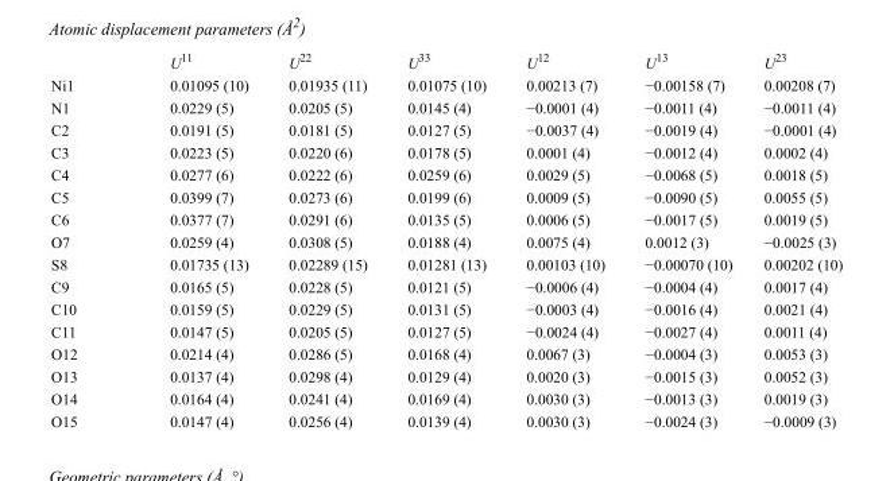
<table><thead><tr><td></td><td>U<sup>11</sup></td><td>U<sup>22</sup></td><td>U<sup>33</sup></td><td>U<sup>12</sup></td><td>U<sup>13</sup></td><td>U<sup>23</sup></td></tr></thead><tbody><tr><td>Ni1</td><td>0.01095 (10)</td><td>0.01935 (11)</td><td>0.01075 (10)</td><td>0.00213 (7)</td><td>−0.00158 (7)</td><td>0.00208 (7)</td></tr><tr><td>N1</td><td>0.0229 (5)</td><td>0.0205 (5)</td><td>0.0145 (4)</td><td>−0.0001 (4)</td><td>−0.0011 (4)</td><td>−0.0011 (4)</td></tr><tr><td>C2</td><td>0.0191 (5)</td><td>0.0181 (5)</td><td>0.0127 (5)</td><td>−0.0037 (4)</td><td>−0.0019 (4)</td><td>−0.0001 (4)</td></tr><tr><td>C3</td><td>0.0223 (5)</td><td>0.0220 (6)</td><td>0.0178 (5)</td><td>0.0001 (4)</td><td>−0.0012 (4)</td><td>0.0002 (4)</td></tr><tr><td>C4</td><td>0.0277 (6)</td><td>0.0222 (6)</td><td>0.0259 (6)</td><td>0.0029 (5)</td><td>−0.0068 (5)</td><td>0.0018 (5)</td></tr><tr><td>C5</td><td>0.0399 (7)</td><td>0.0273 (6)</td><td>0.0199 (6)</td><td>0.0009 (5)</td><td>−0.0090 (5)</td><td>0.0055 (5)</td></tr><tr><td>C6</td><td>0.0377 (7)</td><td>0.0291 (6)</td><td>0.0135 (5)</td><td>0.0006 (5)</td><td>−0.0017 (5)</td><td>0.0019 (5)</td></tr><tr><td>O7</td><td>0.0259 (4)</td><td>0.0308 (5)</td><td>0.0188 (4)</td><td>0.0075 (4)</td><td>0.0012 (3)</td><td>−0.0025 (3)</td></tr><tr><td>S8</td><td>0.01735 (13)</td><td>0.02289 (15)</td><td>0.01281 (13)</td><td>0.00103 (10)</td><td>−0.00070 (10)</td><td>0.00202 (10)</td></tr><tr><td>C9</td><td>0.0165 (5)</td><td>0.0228 (5)</td><td>0.0121 (5)</td><td>−0.0006 (4)</td><td>−0.0004 (4)</td><td>0.0017 (4)</td></tr><tr><td>C10</td><td>0.0159 (5)</td><td>0.0229 (5)</td><td>0.0131 (5)</td><td>−0.0003 (4)</td><td>−0.0016 (4)</td><td>0.0021 (4)</td></tr><tr><td>C11</td><td>0.0147 (5)</td><td>0.0205 (5)</td><td>0.0127 (5)</td><td>−0.0024 (4)</td><td>−0.0027 (4)</td><td>0.0011 (4)</td></tr><tr><td>O12</td><td>0.0214 (4)</td><td>0.0286 (5)</td><td>0.0168 (4)</td><td>0.0067 (3)</td><td>−0.0004 (3)</td><td>0.0053 (3)</td></tr><tr><td>O13</td><td>0.0137 (4)</td><td>0.0298 (4)</td><td>0.0129 (4)</td><td>0.0020 (3)</td><td>−0.0015 (3)</td><td>0.0052 (3)</td></tr><tr><td>O14</td><td>0.0164 (4)</td><td>0.0241 (4)</td><td>0.0169 (4)</td><td>0.0030 (3)</td><td>−0.0013 (3)</td><td>0.0019 (3)</td></tr><tr><td>O15</td><td>0.0147 (4)</td><td>0.0256 (4)</td><td>0.0139 (4)</td><td>0.0030 (3)</td><td>−0.0024 (3)</td><td>−0.0009 (3)</td></tr></tbody></table>